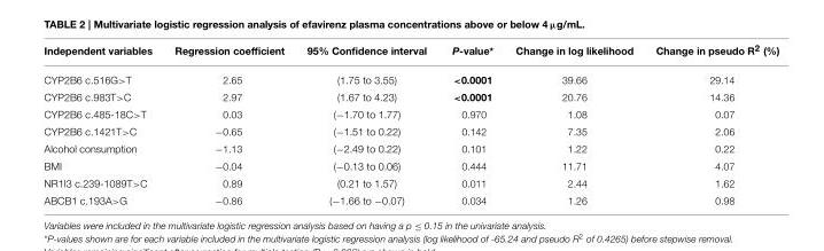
<table><thead><tr><td>Independent variables</td><td>Regression coefficient</td><td>95% Confidence interval</td><td>P-value*</td><td>Change in log likelihood</td><td>Change in pseudo R<sup>2</sup> (%)</td></tr></thead><tbody><tr><td>CYP2B6 c.516G&gt;T</td><td>2.65</td><td>(1.75 to 3.55)</td><td>&lt;0.0001</td><td>39.66</td><td>29.14</td></tr><tr><td>CYP2B6 c.983T&gt;C</td><td>2.97</td><td>(1.67 to 4.23)</td><td>&lt;0.0001</td><td>20.76</td><td>14.36</td></tr><tr><td>CYP2B6 c.485-18C&gt;T</td><td>0.03</td><td>(−1.70 to 1.77)</td><td>0.970</td><td>1.08</td><td>0.07</td></tr><tr><td>CYP2B6 c.1421T&gt;C</td><td>−0.65</td><td>(−1.51 to 0.22)</td><td>0.142</td><td>7.35</td><td>2.06</td></tr><tr><td>Alcohol consumption</td><td>−1.13</td><td>(−2.49 to 0.22)</td><td>0.101</td><td>1.22</td><td>0.22</td></tr><tr><td>BMI</td><td>−0.04</td><td>(−0.13 to 0.06)</td><td>0.444</td><td>11.71</td><td>4.07</td></tr><tr><td>NR1I3 c.239-1089T&gt;C</td><td>0.89</td><td>(0.21 to 1.57)</td><td>0.011</td><td>2.44</td><td>1.62</td></tr><tr><td>ABCB1 c.193A&gt;G</td><td>−0.86</td><td>(−1.66 to −0.07)</td><td>0.034</td><td>1.26</td><td>0.98</td></tr></tbody></table>